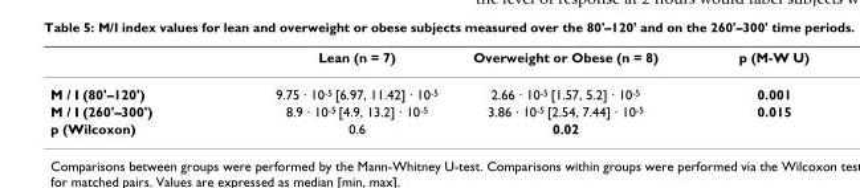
<table><thead><tr><td></td><td>Lean (n = 7)</td><td>Overweight or Obese (n = 8)</td><td>p (M-W U)</td></tr></thead><tbody><tr><td>M / I (80&#x27;–120&#x27;)</td><td>9.75 · 10<sup>-5</sup> [6.97, 11.42] · 10<sup>-5</sup></td><td>2.66 · 10<sup>-5</sup> [1.57, 5.2] · 10<sup>-5</sup></td><td>0.001</td></tr><tr><td>M / I (260&#x27;–300&#x27;)</td><td>8.9 · 10<sup>-5</sup> [4.9, 13.2] · 10<sup>-5</sup></td><td>3.86 · 10<sup>-5</sup> [2.54, 7.44] · 10<sup>-5</sup></td><td>0.015</td></tr><tr><td>p (Wilcoxon)</td><td>0.6</td><td>0.02</td><td></td></tr></tbody></table>